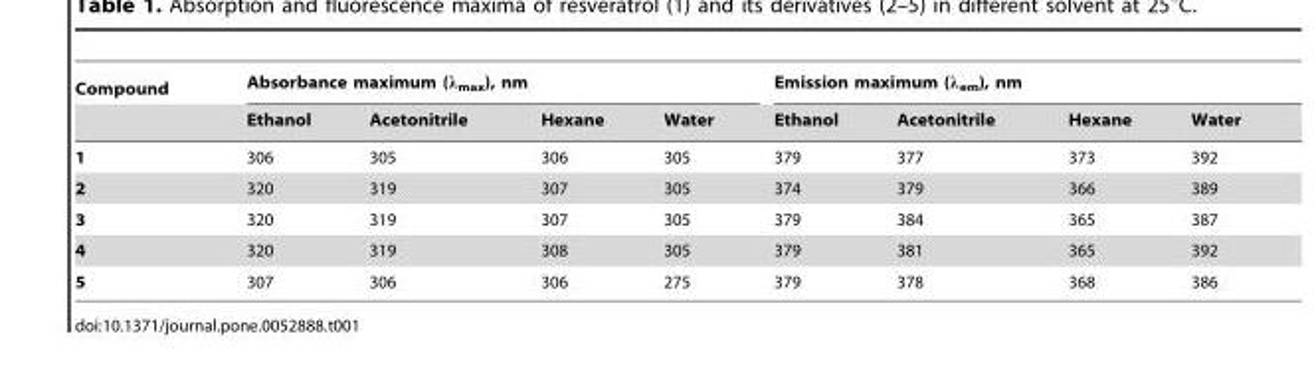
<table><thead><tr><td rowspan="2">Compound</td><td colspan="4">Absorbance maximum (λ<sub>max</sub>), nm</td><td colspan="4">Emission maximum (λ<sub>em</sub>), nm</td></tr><tr><td>Ethanol</td><td>Acetonitrile</td><td>Hexane</td><td>Water</td><td>Ethanol</td><td>Acetonitrile</td><td>Hexane</td><td>Water</td></tr></thead><tbody><tr><td>1</td><td>306</td><td>305</td><td>306</td><td>305</td><td>379</td><td>377</td><td>373</td><td>392</td></tr><tr><td>2</td><td>320</td><td>319</td><td>307</td><td>305</td><td>374</td><td>379</td><td>366</td><td>389</td></tr><tr><td>3</td><td>320</td><td>319</td><td>307</td><td>305</td><td>379</td><td>384</td><td>365</td><td>387</td></tr><tr><td>4</td><td>320</td><td>319</td><td>308</td><td>305</td><td>379</td><td>381</td><td>365</td><td>392</td></tr><tr><td>5</td><td>307</td><td>306</td><td>306</td><td>275</td><td>379</td><td>378</td><td>368</td><td>386</td></tr></tbody></table>